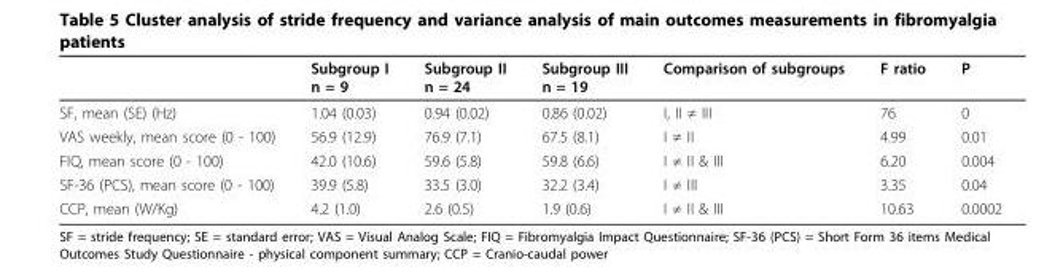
<table><thead><tr><td></td><td>Subgroup I n = 9</td><td>Subgroup II n = 24</td><td>Subgroup III n = 19</td><td>Comparison of subgroups</td><td>F ratio</td><td>P</td></tr></thead><tbody><tr><td>SF, mean (SE) (Hz)</td><td>1.04 (0.03)</td><td>0.94 (0.02)</td><td>0.86 (0.02)</td><td>I, II ≠ III</td><td>76</td><td>0</td></tr><tr><td>VAS weekly, mean score (0 - 100)</td><td>56.9 (12.9)</td><td>76.9 (7.1)</td><td>67.5 (8.1)</td><td>I ≠ II</td><td>4.99</td><td>0.01</td></tr><tr><td>FIQ, mean score (0 - 100)</td><td>42.0 (10.6)</td><td>59.6 (5.8)</td><td>59.8 (6.6)</td><td>I ≠ II &amp; III</td><td>6.20</td><td>0.004</td></tr><tr><td>SF-36 (PCS), mean score (0 - 100)</td><td>39.9 (5.8)</td><td>33.5 (3.0)</td><td>32.2 (3.4)</td><td>I ≠ III</td><td>3.35</td><td>0.04</td></tr><tr><td>CCP, mean (W/Kg)</td><td>4.2 (1.0)</td><td>2.6 (0.5)</td><td>1.9 (0.6)</td><td>I ≠ II &amp; III</td><td>10.63</td><td>0.0002</td></tr></tbody></table>